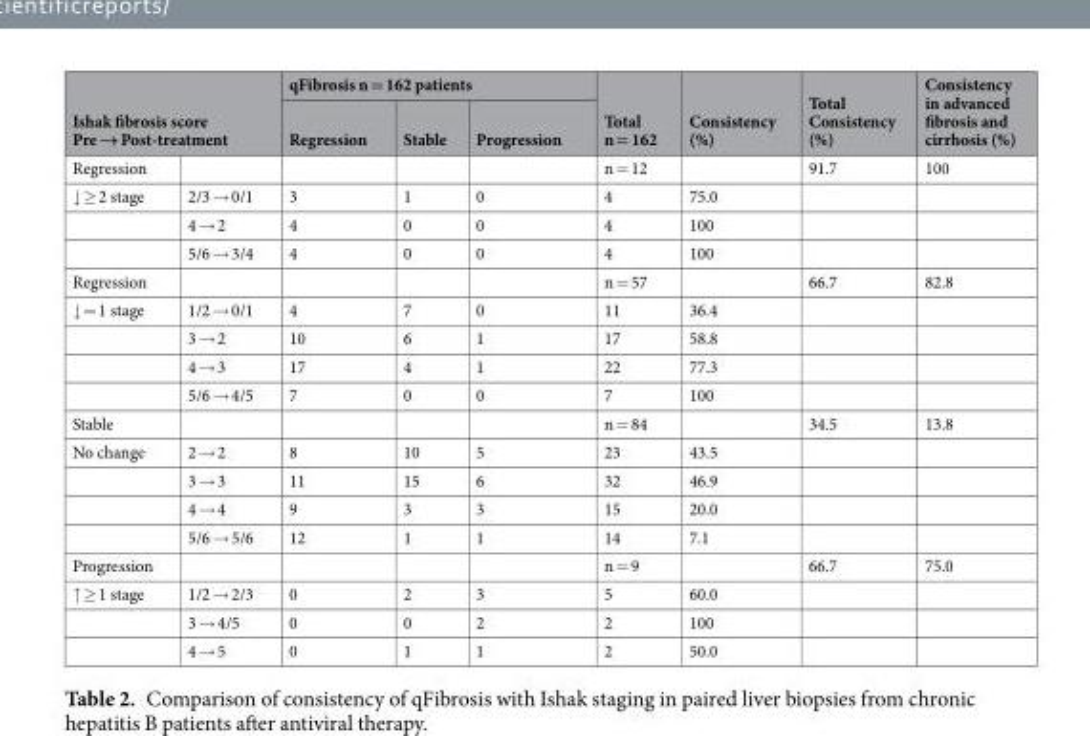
<table><thead><tr><td rowspan="2" colspan="2">Ishak fibrosis score Pre → Post-treatment</td><td colspan="3">qFibrosis n = 162 patients</td><td rowspan="3">Total n = 162 n = 12</td><td rowspan="3">Consistency (%)</td><td rowspan="3">Total Consistency (%) 91.7</td><td rowspan="3">Consistency in advanced fibrosis and cirrhosis (%) 100</td></tr><tr><td rowspan="2">Regression</td><td rowspan="2">Stable</td><td rowspan="2">Progression</td></tr><tr><td>Regression</td><td></td></tr></thead><tbody><tr><td rowspan="3">↓ ≥ 2 stage</td><td>2/3 → 0/1</td><td>3</td><td>1</td><td>0</td><td>4</td><td>75.0</td><td></td><td></td></tr><tr><td>4 → 2</td><td>4</td><td>0</td><td>0</td><td>4</td><td>100</td><td></td><td></td></tr><tr><td>5/6 → 3/4</td><td>4</td><td>0</td><td>0</td><td>4</td><td>100</td><td></td><td></td></tr><tr><td>Regression</td><td></td><td></td><td></td><td></td><td>n = 57</td><td></td><td>66.7</td><td>82.8</td></tr><tr><td rowspan="4">↓ = 1 stage</td><td>1/2 → 0/1</td><td>4</td><td>7</td><td>0</td><td>11</td><td>36.4</td><td></td><td></td></tr><tr><td>3 → 2</td><td>10</td><td>6</td><td>1</td><td>17</td><td>58.8</td><td></td><td></td></tr><tr><td>4 → 3</td><td>17</td><td>4</td><td>1</td><td>22</td><td>77.3</td><td></td><td></td></tr><tr><td>5/6 → 4/5</td><td>7</td><td>0</td><td>0</td><td>7</td><td>100</td><td></td><td></td></tr><tr><td>Stable</td><td></td><td></td><td></td><td></td><td>n = 84</td><td></td><td>34.5</td><td>13.8</td></tr><tr><td rowspan="4">No change</td><td>2 → 2</td><td>8</td><td>10</td><td>5</td><td>23</td><td>43.5</td><td></td><td></td></tr><tr><td>3 → 3</td><td>11</td><td>15</td><td>6</td><td>32</td><td>46.9</td><td></td><td></td></tr><tr><td>4 → 4</td><td>9</td><td>3</td><td>3</td><td>15</td><td>20.0</td><td></td><td></td></tr><tr><td>5/6 → 5/6</td><td>12</td><td>1</td><td>1</td><td>14</td><td>7.1</td><td></td><td></td></tr><tr><td>Progression</td><td></td><td></td><td></td><td></td><td>n = 9</td><td></td><td>66.7</td><td>75.0</td></tr><tr><td rowspan="3">↑ ≥ 1 stage</td><td>1/2 → 2/3</td><td>0</td><td>2</td><td>3</td><td>5</td><td>60.0</td><td></td><td></td></tr><tr><td>3 → 4/5</td><td>0</td><td>0</td><td>2</td><td>2</td><td>100</td><td></td><td></td></tr><tr><td>4 → 5</td><td>0</td><td>1</td><td>1</td><td>2</td><td>50.0</td><td></td><td></td></tr></tbody></table>